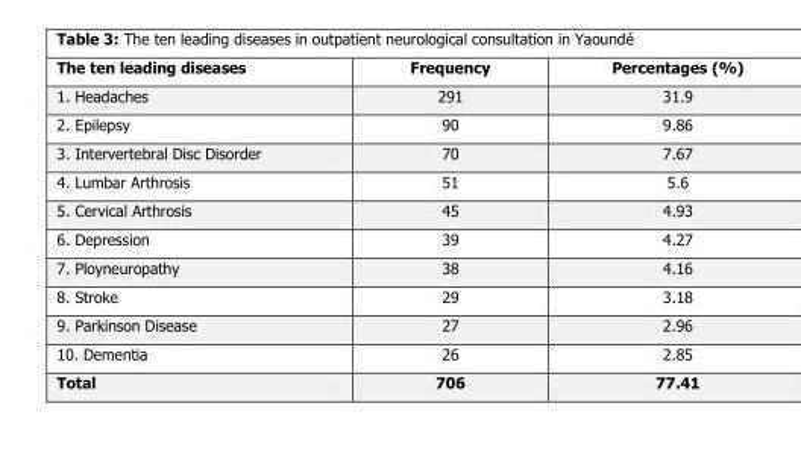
<table><thead><tr><td>The ten leading diseases</td><td>Frequency</td><td>Percentages (%)</td></tr></thead><tbody><tr><td>1. Headaches</td><td>291</td><td>31.9</td></tr><tr><td>2. Epilepsy</td><td>90</td><td>9.86</td></tr><tr><td>3. Intervertebral Disc Disorder</td><td>70</td><td>7.67</td></tr><tr><td>4. Lumbar Arthrosis</td><td>51</td><td>5.6</td></tr><tr><td>5. Cervical Arthrosis</td><td>45</td><td>4.93</td></tr><tr><td>6. Depression</td><td>39</td><td>4.27</td></tr><tr><td>7. Ployneuropathy</td><td>38</td><td>4.16</td></tr><tr><td>8. Stroke</td><td>29</td><td>3.18</td></tr><tr><td>9. Parkinson Disease</td><td>27</td><td>2.96</td></tr><tr><td>10. Dementia</td><td>26</td><td>2.85</td></tr><tr><td>Total</td><td>706</td><td>77.41</td></tr></tbody></table>